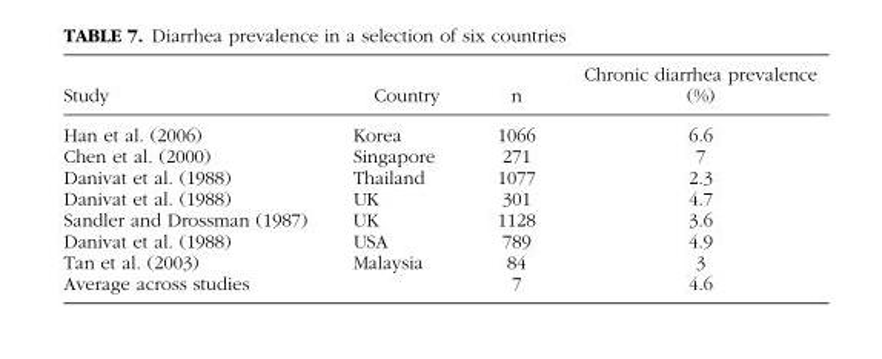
<table><thead><tr><td>Study</td><td>Country</td><td>n</td><td>Chronic diarrhea prevalence (%)</td></tr></thead><tbody><tr><td>Han et al. (2006)</td><td>Korea</td><td>1066</td><td>6.6</td></tr><tr><td>Chen et al. (2000)</td><td>Singapore</td><td>271</td><td>7</td></tr><tr><td>Danivat et al. (1988)</td><td>Thailand</td><td>1077</td><td>2.3</td></tr><tr><td>Danivat et al. (1988)</td><td>UK</td><td>301</td><td>4.7</td></tr><tr><td>Sandler and Drossman (1987)</td><td>UK</td><td>1128</td><td>3.6</td></tr><tr><td>Danivat et al. (1988)</td><td>USA</td><td>789</td><td>4.9</td></tr><tr><td>Tan et al. (2003)</td><td>Malaysia</td><td>84</td><td>3</td></tr><tr><td>Average across studies</td><td></td><td>7</td><td>4.6</td></tr></tbody></table>